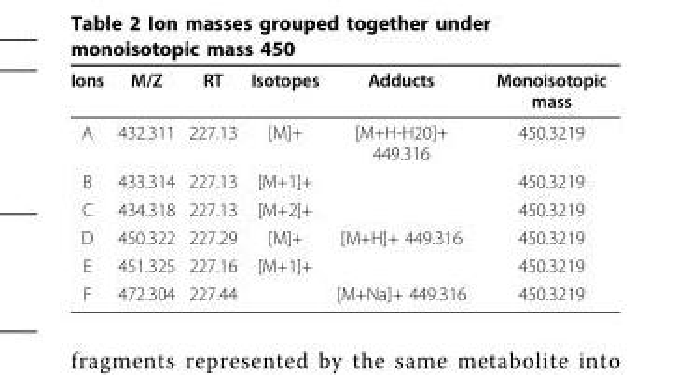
<table><thead><tr><td>Ions</td><td>M/Z</td><td>RT</td><td>Isotopes</td><td>Adducts</td><td>Monoisotopic mass</td></tr></thead><tbody><tr><td>A</td><td>432.311</td><td>227.13</td><td>[M]+</td><td>[M+H-H20]+ 449.316</td><td>450.3219</td></tr><tr><td>B</td><td>433.314</td><td>227.13</td><td>[M+1]+</td><td></td><td>450.3219</td></tr><tr><td>C</td><td>434.318</td><td>227.13</td><td>[M+2]+</td><td></td><td>450.3219</td></tr><tr><td>D</td><td>450.322</td><td>227.29</td><td>[M]+</td><td>[M+H]+ 449.316</td><td>450.3219</td></tr><tr><td>E</td><td>451.325</td><td>227.16</td><td>[M+1]+</td><td></td><td>450.3219</td></tr><tr><td>F</td><td>472.304</td><td>227.44</td><td></td><td>[M+Na]+ 449.316</td><td>450.3219</td></tr></tbody></table>